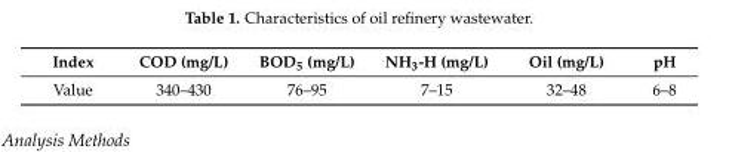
<table><thead><tr><td>Index</td><td>COD (mg/L)</td><td>BOD<sub>5</sub> (mg/L)</td><td>NH<sub>3</sub>-H (mg/L)</td><td>Oil (mg/L)</td><td>pH</td></tr></thead><tbody><tr><td>Value</td><td>340–430</td><td>76–95</td><td>7–15</td><td>32–48</td><td>6–8</td></tr></tbody></table>